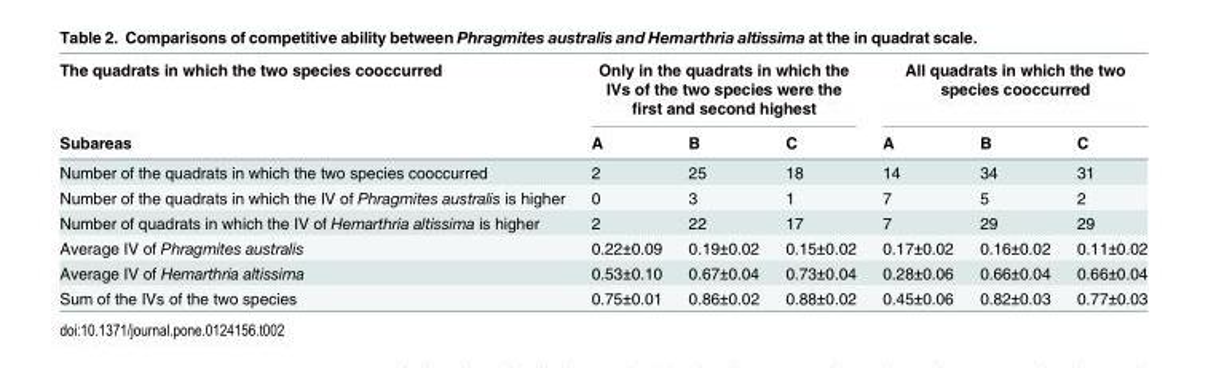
<table><thead><tr><td rowspan="2">The quadrats in which the two species cooccurred Subareas</td><td colspan="3">Only in the quadrats in which the IVs of the two species were the first and second highest</td><td colspan="3">All quadrats in which the two species cooccurred</td></tr><tr><td>A</td><td>B</td><td>C</td><td>A</td><td>B</td><td>C</td></tr></thead><tbody><tr><td>Number of the quadrats in which the two species cooccurred</td><td>2</td><td>25</td><td>18</td><td>14</td><td>34</td><td>31</td></tr><tr><td>Number of the quadrats in which the IV of Phragmites australis is higher</td><td>0</td><td>3</td><td>1</td><td>7</td><td>5</td><td>2</td></tr><tr><td>Number of quadrats in which the IV of Hemarthria altissima is higher</td><td>2</td><td>22</td><td>17</td><td>7</td><td>29</td><td>29</td></tr><tr><td>Average IV of Phragmites australis</td><td>0.22±0.09</td><td>0.19±0.02</td><td>0.15±0.02</td><td>0.17±0.02</td><td>0.16±0.02</td><td>0.11±0.02</td></tr><tr><td>Average IV of Hemarthria altissima</td><td>0.53±0.10</td><td>0.67±0.04</td><td>0.73±0.04</td><td>0.28±0.06</td><td>0.66±0.04</td><td>0.66±0.04</td></tr><tr><td>Sum of the IVs of the two species</td><td>0.75±0.01</td><td>0.86±0.02</td><td>0.88±0.02</td><td>0.45±0.06</td><td>0.82±0.03</td><td>0.77±0.03</td></tr></tbody></table>